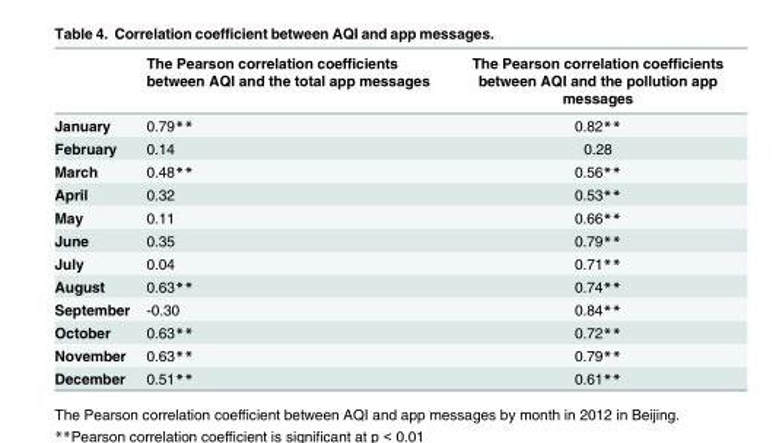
<table><thead><tr><td></td><td>The Pearson correlation coefficients between AQI and the total app messages</td><td>The Pearson correlation coefficients between AQI and the pollution app messages</td></tr></thead><tbody><tr><td>January</td><td>0.79**</td><td>0.82**</td></tr><tr><td>February</td><td>0.14</td><td>0.28</td></tr><tr><td>March</td><td>0.48**</td><td>0.56**</td></tr><tr><td>April</td><td>0.32</td><td>0.53**</td></tr><tr><td>May</td><td>0.11</td><td>0.66**</td></tr><tr><td>June</td><td>0.35</td><td>0.79**</td></tr><tr><td>July</td><td>0.04</td><td>0.71**</td></tr><tr><td>August</td><td>0.63**</td><td>0.74**</td></tr><tr><td>September</td><td>-0.30</td><td>0.84**</td></tr><tr><td>October</td><td>0.63**</td><td>0.72**</td></tr><tr><td>November</td><td>0.63**</td><td>0.79**</td></tr><tr><td>December</td><td>0.51**</td><td>0.61**</td></tr></tbody></table>